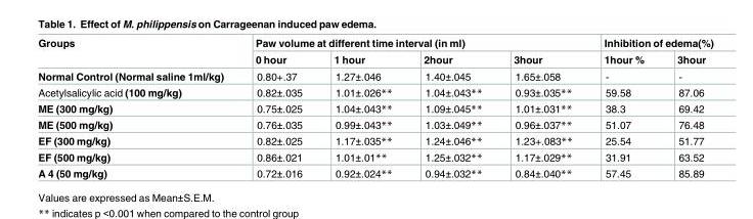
<table><thead><tr><td rowspan="2">Groups</td><td colspan="4">Paw volume at different time interval (in ml)</td><td colspan="2">Inhibition of edema(%)</td></tr><tr><td>0 hour</td><td>1 hour</td><td>2hour</td><td>3hour</td><td>1hour %</td><td>3hour</td></tr></thead><tbody><tr><td>Normal Control (Normal saline 1ml/kg)</td><td>0.80+.37</td><td>1.27±.046</td><td>1.40±.045</td><td>1.65±.058</td><td>-</td><td>-</td></tr><tr><td>Acetylsalicylic acid (100 mg/kg)</td><td>0.82±.035</td><td>1.01±.026**</td><td>1.04±.043**</td><td>0.93±.035**</td><td>59.58</td><td>87.06</td></tr><tr><td>ME (300 mg/kg)</td><td>0.75±.025</td><td>1.04±.043**</td><td>1.09±.045**</td><td>1.01±.031**</td><td>38.3</td><td>69.42</td></tr><tr><td>ME (500 mg/kg)</td><td>0.76±.035</td><td>0.99±.043**</td><td>1.03±.049**</td><td>0.96±.037**</td><td>51.07</td><td>76.48</td></tr><tr><td>EF (300 mg/kg)</td><td>0.82±.025</td><td>1.17±.035**</td><td>1.24±.046**</td><td>1.23+.083**</td><td>25.54</td><td>51.77</td></tr><tr><td>EF (500 mg/kg)</td><td>0.86±.021</td><td>1.01±.01**</td><td>1.25±.032**</td><td>1.17±.029**</td><td>31.91</td><td>63.52</td></tr><tr><td>A 4 (50 mg/kg)</td><td>0.72±.016</td><td>0.92±.024**</td><td>0.94±.032**</td><td>0.84±.040**</td><td>57.45</td><td>85.89</td></tr></tbody></table>